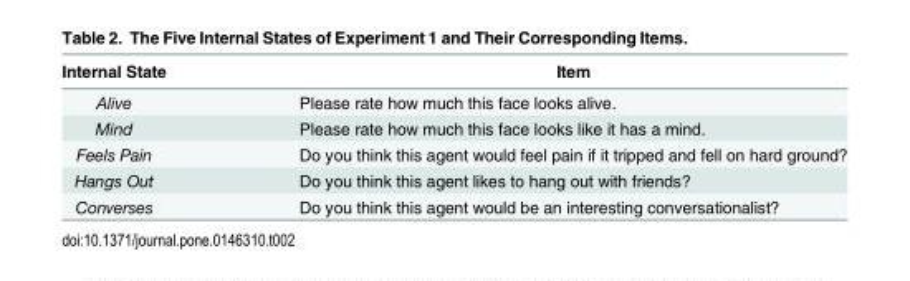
<table><thead><tr><td>Internal State</td><td>Item</td></tr></thead><tbody><tr><td>Alive</td><td>Please rate how much this face looks alive.</td></tr><tr><td>Mind</td><td>Please rate how much this face looks like it has a mind.</td></tr><tr><td>Feels Pain</td><td>Do you think this agent would feel pain if it tripped and fell on hard ground?</td></tr><tr><td>Hangs Out</td><td>Do you think this agent likes to hang out with friends?</td></tr><tr><td>Converses</td><td>Do you think this agent would be an interesting conversationalist?</td></tr></tbody></table>